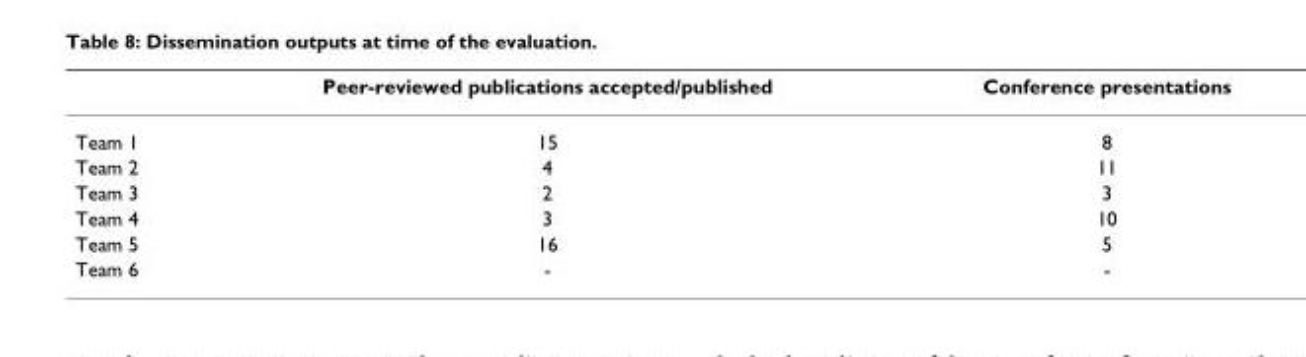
<table><thead><tr><td></td><td>Peer-reviewed publications accepted/published</td><td>Conference presentations</td></tr></thead><tbody><tr><td>Team 1</td><td>15</td><td>8</td></tr><tr><td>Team 2</td><td>4</td><td>11</td></tr><tr><td>Team 3</td><td>2</td><td>3</td></tr><tr><td>Team 4</td><td>3</td><td>10</td></tr><tr><td>Team 5</td><td>16</td><td>5</td></tr><tr><td>Team 6</td><td>-</td><td>-</td></tr></tbody></table>